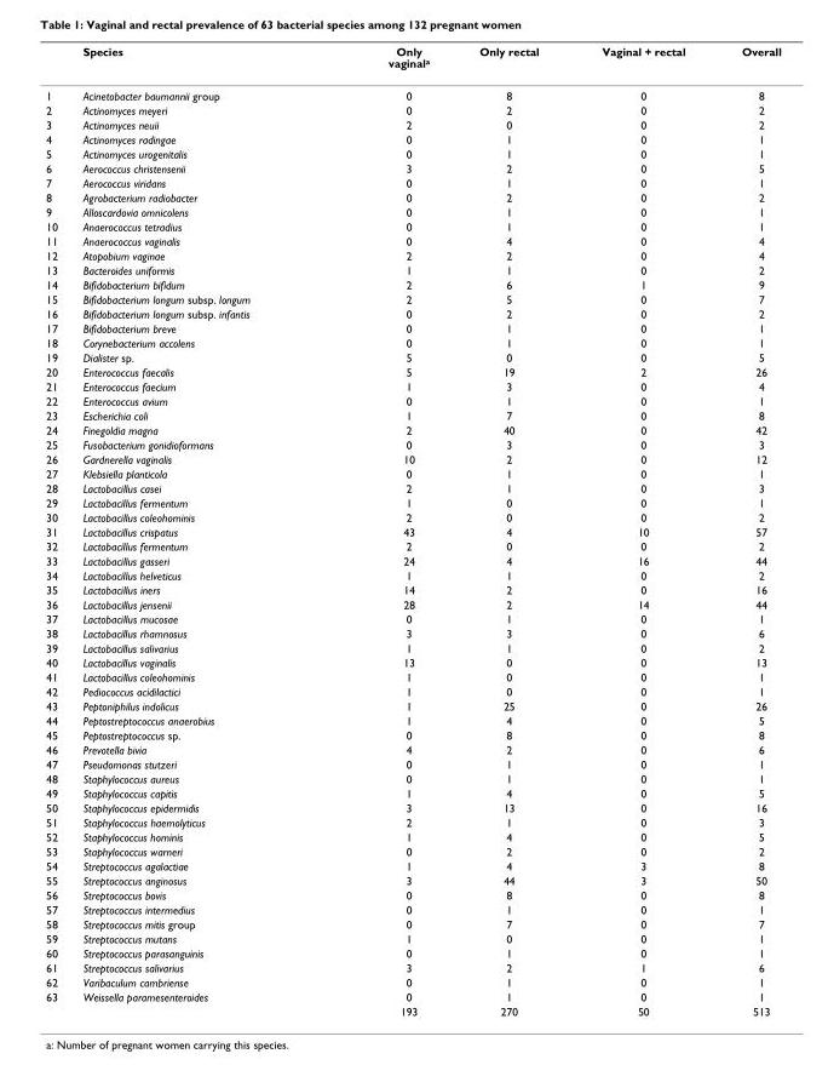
<table><thead><tr><td></td><td>Species</td><td>Only vaginal<sup>a</sup></td><td>Only rectal</td><td>Vaginal + rectal</td><td>Overall</td></tr></thead><tbody><tr><td>1</td><td>Acinetobacter baumannii group</td><td>0</td><td>8</td><td>0</td><td>8</td></tr><tr><td>2</td><td>Actinomyces meyeri</td><td>0</td><td>2</td><td>0</td><td>2</td></tr><tr><td>3</td><td>Actinomyces neuii</td><td>2</td><td>0</td><td>0</td><td>2</td></tr><tr><td>4</td><td>Actinomyces radingae</td><td>0</td><td>1</td><td>0</td><td>1</td></tr><tr><td>5</td><td>Actinomyces urogenitalis</td><td>0</td><td>1</td><td>0</td><td>1</td></tr><tr><td>6</td><td>Aerococcus christensenii</td><td>3</td><td>2</td><td>0</td><td>5</td></tr><tr><td>7</td><td>Aerococcus viridans</td><td>0</td><td>1</td><td>0</td><td>1</td></tr><tr><td>8</td><td>Agrobacterium radiobacter</td><td>0</td><td>2</td><td>0</td><td>2</td></tr><tr><td>9</td><td>Alloscardovia omnicolens</td><td>0</td><td>1</td><td>0</td><td>1</td></tr><tr><td>10</td><td>Anaerococcus tetradius</td><td>0</td><td>1</td><td>0</td><td>1</td></tr><tr><td>11</td><td>Anaerococcus vaginalis</td><td>0</td><td>4</td><td>0</td><td>4</td></tr><tr><td>12</td><td>Atopobium vaginae</td><td>2</td><td>2</td><td>0</td><td>4</td></tr><tr><td>13</td><td>Bacteroides uniformis</td><td>1</td><td>1</td><td>0</td><td>2</td></tr><tr><td>14</td><td>Bifidobacterium bifidum</td><td>2</td><td>6</td><td>1</td><td>9</td></tr><tr><td>15</td><td>Bifidobacterium longum subsp. longum</td><td>2</td><td>5</td><td>0</td><td>7</td></tr><tr><td>16</td><td>Bifidobacterium longum subsp. infantis</td><td>0</td><td>2</td><td>0</td><td>2</td></tr><tr><td>17</td><td>Bifidobacterium breve</td><td>0</td><td>1</td><td>0</td><td>1</td></tr><tr><td>18</td><td>Corynebacterium accolens</td><td>0</td><td>1</td><td>0</td><td>1</td></tr><tr><td>19</td><td>Dialister sp.</td><td>5</td><td>0</td><td>0</td><td>5</td></tr><tr><td>20</td><td>Enterococcus faecalis</td><td>5</td><td>19</td><td>2</td><td>26</td></tr><tr><td>21</td><td>Enterococcus faecium</td><td>1</td><td>3</td><td>0</td><td>4</td></tr><tr><td>22</td><td>Enterococcus avium</td><td>0</td><td>1</td><td>0</td><td>1</td></tr><tr><td>23</td><td>Escherichia coli</td><td>1</td><td>7</td><td>0</td><td>8</td></tr><tr><td>24</td><td>Finegoldia magna</td><td>2</td><td>40</td><td>0</td><td>42</td></tr><tr><td>25</td><td>Fusobacterium gonidioformans</td><td>0</td><td>3</td><td>0</td><td>3</td></tr><tr><td>26</td><td>Gardnerella vaginalis</td><td>10</td><td>2</td><td>0</td><td>12</td></tr><tr><td>27</td><td>Klebsiella planticola</td><td>0</td><td>1</td><td>0</td><td>1</td></tr><tr><td>28</td><td>Lactobacillus casei</td><td>2</td><td>1</td><td>0</td><td>3</td></tr><tr><td>29</td><td>Lactobacillus fermentum</td><td>1</td><td>0</td><td>0</td><td>1</td></tr><tr><td>30</td><td>Lactobacillus coleohominis</td><td>2</td><td>0</td><td>0</td><td>2</td></tr><tr><td>31</td><td>Lactobacillus crispatus</td><td>43</td><td>4</td><td>10</td><td>57</td></tr><tr><td>32</td><td>Lactobacillus fermentum</td><td>2</td><td>0</td><td>0</td><td>2</td></tr><tr><td>33</td><td>Lactobacillus gasseri</td><td>24</td><td>4</td><td>16</td><td>44</td></tr><tr><td>34</td><td>Lactobacillus helveticus</td><td>1</td><td>1</td><td>0</td><td>2</td></tr><tr><td>35</td><td>Lactobacillus iners</td><td>14</td><td>2</td><td>0</td><td>16</td></tr><tr><td>36</td><td>Lactobacillus jensenii</td><td>28</td><td>2</td><td>14</td><td>44</td></tr><tr><td>37</td><td>Lactobacillus mucosae</td><td>0</td><td>1</td><td>0</td><td>1</td></tr><tr><td>38</td><td>Lactobacillus rhamnosus</td><td>3</td><td>3</td><td>0</td><td>6</td></tr><tr><td>39</td><td>Lactobacillus salivarius</td><td>1</td><td>1</td><td>0</td><td>2</td></tr><tr><td>40</td><td>Lactobacillus vaginalis</td><td>13</td><td>0</td><td>0</td><td>13</td></tr><tr><td>41</td><td>Lactobacillus coleohominis</td><td>1</td><td>0</td><td>0</td><td>1</td></tr><tr><td>42</td><td>Pediococcus acidilactici</td><td>1</td><td>0</td><td>0</td><td>1</td></tr><tr><td>43</td><td>Peptoniphilus indolicus</td><td>1</td><td>25</td><td>0</td><td>26</td></tr><tr><td>44</td><td>Peptostreptococcus anaerobius</td><td>1</td><td>4</td><td>0</td><td>5</td></tr><tr><td>45</td><td>Peptostreptococcus sp.</td><td>0</td><td>8</td><td>0</td><td>8</td></tr><tr><td>46</td><td>Prevotella bivia</td><td>4</td><td>2</td><td>0</td><td>6</td></tr><tr><td>47</td><td>Pseudomonas stutzeri</td><td>0</td><td>1</td><td>0</td><td>1</td></tr><tr><td>48</td><td>Staphylococcus aureus</td><td>0</td><td>1</td><td>0</td><td>1</td></tr><tr><td>49</td><td>Staphylococcus capitis</td><td>1</td><td>4</td><td>0</td><td>5</td></tr><tr><td>50</td><td>Staphylococcus epidermidis</td><td>3</td><td>13</td><td>0</td><td>16</td></tr><tr><td>51</td><td>Staphylococcus haemolyticus</td><td>2</td><td>1</td><td>0</td><td>3</td></tr><tr><td>52</td><td>Staphylococcus hominis</td><td>1</td><td>4</td><td>0</td><td>5</td></tr><tr><td>53</td><td>Staphylococcus warneri</td><td>0</td><td>2</td><td>0</td><td>2</td></tr><tr><td>54</td><td>Streptococcus agalactiae</td><td>1</td><td>4</td><td>3</td><td>8</td></tr><tr><td>55</td><td>Streptococcus anginosus</td><td>3</td><td>44</td><td>3</td><td>50</td></tr><tr><td>56</td><td>Streptococcus bovis</td><td>0</td><td>8</td><td>0</td><td>8</td></tr><tr><td>57</td><td>Streptococcus intermedius</td><td>0</td><td>1</td><td>0</td><td>1</td></tr><tr><td>58</td><td>Streptococcus mitis group</td><td>0</td><td>7</td><td>0</td><td>7</td></tr><tr><td>59</td><td>Streptococcus mutans</td><td>1</td><td>0</td><td>0</td><td>1</td></tr><tr><td>60</td><td>Streptococcus parasanguinis</td><td>0</td><td>1</td><td>0</td><td>1</td></tr><tr><td>61</td><td>Streptococcus salivarius</td><td>3</td><td>2</td><td>1</td><td>6</td></tr><tr><td>62</td><td>Varibaculum cambriense</td><td>0</td><td>1</td><td>0</td><td>1</td></tr><tr><td rowspan="2">63</td><td>Weissella paramesenteroides</td><td>0</td><td>1</td><td>0</td><td>1</td></tr><tr><td></td><td>193</td><td>270</td><td>50</td><td>513</td></tr></tbody></table>